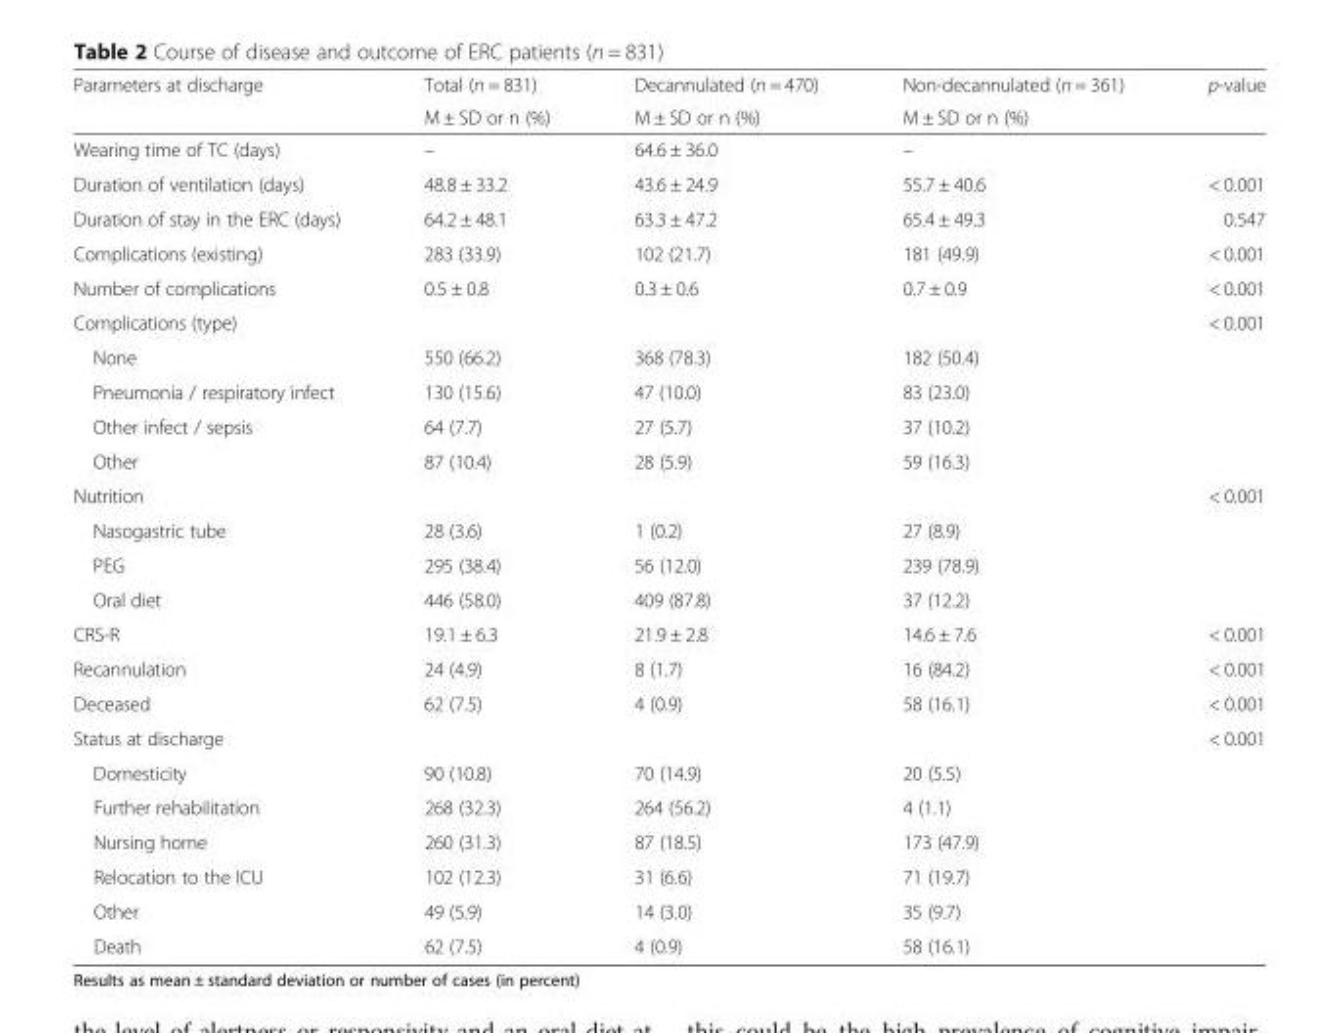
<table><thead><tr><td rowspan="2">Parameters at discharge</td><td rowspan="2">Total (n = 831) M ± SD or n (%)</td><td rowspan="2">Decannulated (n = 470) M ± SD or n (%)</td><td rowspan="2">Non-decannulated (n = 361) M ± SD or n (%)</td><td rowspan="2">p-value</td></tr><tr></tr></thead><tbody><tr><td>Wearing time of TC (days)</td><td>–</td><td>64.6 ± 36.0</td><td>–</td><td></td></tr><tr><td>Duration of ventilation (days)</td><td>48.8 ± 33.2</td><td>43.6 ± 24.9</td><td>55.7 ± 40.6</td><td>&lt; 0.001</td></tr><tr><td>Duration of stay in the ERC (days)</td><td>64.2 ± 48.1</td><td>63.3 ± 47.2</td><td>65.4 ± 49.3</td><td>0.547</td></tr><tr><td>Complications (existing)</td><td>283 (33.9)</td><td>102 (21.7)</td><td>181 (49.9)</td><td>&lt; 0.001</td></tr><tr><td>Number of complications</td><td>0.5 ± 0.8</td><td>0.3 ± 0.6</td><td>0.7 ± 0.9</td><td>&lt; 0.001</td></tr><tr><td colspan="4">Complications (type)</td><td>&lt; 0.001</td></tr><tr><td>None</td><td>550 (66.2)</td><td>368 (78.3)</td><td>182 (50.4)</td><td></td></tr><tr><td>Pneumonia / respiratory infect</td><td>130 (15.6)</td><td>47 (10.0)</td><td>83 (23.0)</td><td></td></tr><tr><td>Other infect / sepsis</td><td>64 (7.7)</td><td>27 (5.7)</td><td>37 (10.2)</td><td></td></tr><tr><td>Other</td><td>87 (10.4)</td><td>28 (5.9)</td><td>59 (16.3)</td><td></td></tr><tr><td colspan="4">Nutrition</td><td>&lt; 0.001</td></tr><tr><td>Nasogastric tube</td><td>28 (3.6)</td><td>1 (0.2)</td><td>27 (8.9)</td><td rowspan="3"></td></tr><tr><td>PEG</td><td>295 (38.4)</td><td>56 (12.0)</td><td>239 (78.9)</td></tr><tr><td>Oral diet</td><td>446 (58.0)</td><td>409 (87.8)</td><td>37 (12.2)</td></tr><tr><td>CRS-R</td><td>19.1 ± 6.3</td><td>21.9 ± 2.8</td><td>14.6 ± 7.6</td><td>&lt; 0.001</td></tr><tr><td>Recannulation</td><td>24 (4.9)</td><td>8 (1.7)</td><td>16 (84.2)</td><td>&lt; 0.001</td></tr><tr><td>Deceased</td><td>62 (7.5)</td><td>4 (0.9)</td><td>58 (16.1)</td><td>&lt; 0.001</td></tr><tr><td colspan="4">Status at discharge</td><td>&lt; 0.001</td></tr><tr><td>Domesticity</td><td>90 (10.8)</td><td>70 (14.9)</td><td>20 (5.5)</td><td rowspan="6"></td></tr><tr><td>Further rehabilitation</td><td>268 (32.3)</td><td>264 (56.2)</td><td>4 (1.1)</td></tr><tr><td>Nursing home</td><td>260 (31.3)</td><td>87 (18.5)</td><td>173 (47.9)</td></tr><tr><td>Relocation to the ICU</td><td>102 (12.3)</td><td>31 (6.6)</td><td>71 (19.7)</td></tr><tr><td>Other</td><td>49 (5.9)</td><td>14 (3.0)</td><td>35 (9.7)</td></tr><tr><td>Death</td><td>62 (7.5)</td><td>4 (0.9)</td><td>58 (16.1)</td></tr></tbody></table>